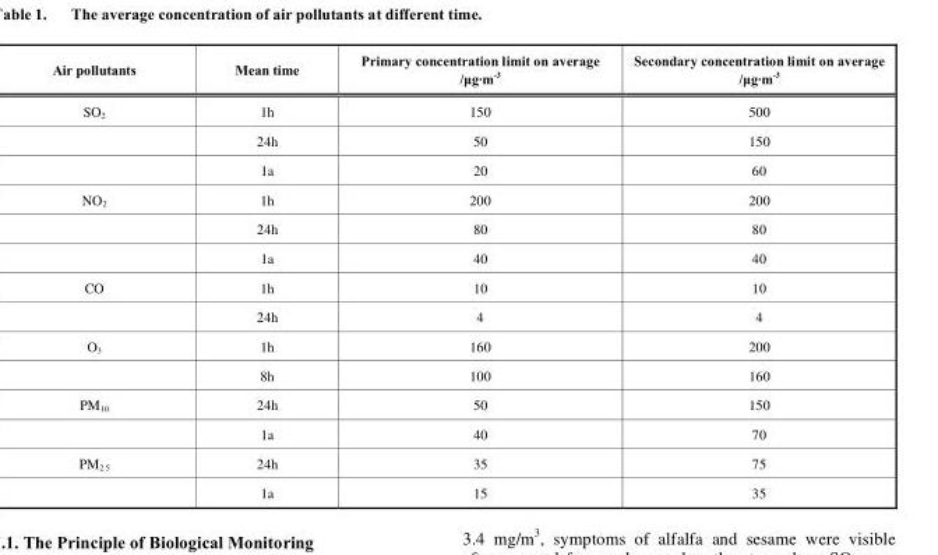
<table><thead><tr><td>Air pollutants</td><td>Mean time</td><td>Primary concentration limit on average /μg·m-3</td><td>Secondary concentration limit on average /μg·m-3</td></tr></thead><tbody><tr><td rowspan="3">SO2</td><td>1h</td><td>150</td><td>500</td></tr><tr><td>24h</td><td>50</td><td>150</td></tr><tr><td>1a</td><td>20</td><td>60</td></tr><tr><td rowspan="3">NO2</td><td>1h</td><td>200</td><td>200</td></tr><tr><td>24h</td><td>80</td><td>80</td></tr><tr><td>1a</td><td>40</td><td>40</td></tr><tr><td rowspan="2">CO</td><td>1h</td><td>10</td><td>10</td></tr><tr><td>24h</td><td>4</td><td>4</td></tr><tr><td rowspan="2">O3</td><td>1h</td><td>160</td><td>200</td></tr><tr><td>8h</td><td>100</td><td>160</td></tr><tr><td rowspan="2">PM10</td><td>24h</td><td>50</td><td>150</td></tr><tr><td>1a</td><td>40</td><td>70</td></tr><tr><td rowspan="2">PM2.5</td><td>24h</td><td>35</td><td>75</td></tr><tr><td>1a</td><td>15</td><td>35</td></tr></tbody></table>